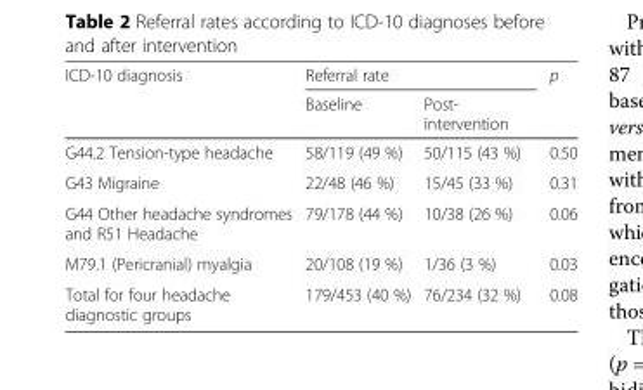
<table><thead><tr><td rowspan="2">ICD-10 diagnosis</td><td colspan="2">Referral rate</td><td rowspan="2">p</td></tr><tr><td>Baseline</td><td>Post- intervention</td></tr></thead><tbody><tr><td>G44.2 Tension-type headache</td><td>58/119 (49 %)</td><td>50/115 (43 %)</td><td>0.50</td></tr><tr><td>G43 Migraine</td><td>22/48 (46 %)</td><td>15/45 (33 %)</td><td>0.31</td></tr><tr><td>G44 Other headache syndromes and R51 Headache</td><td>79/178 (44 %)</td><td>10/38 (26 %)</td><td>0.06</td></tr><tr><td>M79.1 (Pericranial) myalgia</td><td>20/108 (19 %)</td><td>1/36 (3 %)</td><td>0.03</td></tr><tr><td>Total for four headache diagnostic groups</td><td>179/453 (40 %)</td><td>76/234 (32 %)</td><td>0.08</td></tr></tbody></table>